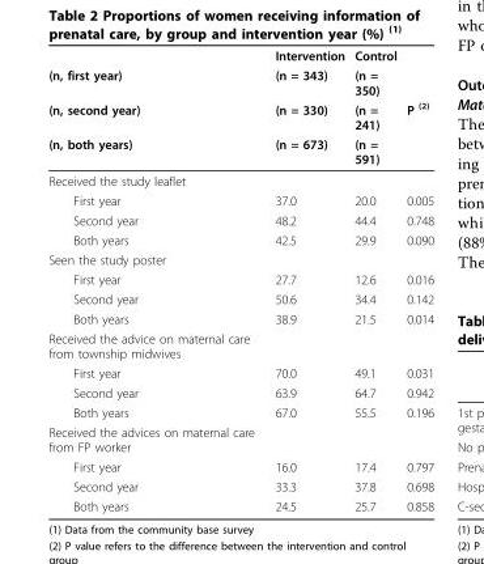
<table><thead><tr><td rowspan="4">(n, first year) (n, second year) (n, both years)</td><td rowspan="4">Intervention (n = 343) (n = 330) (n = 673)</td><td rowspan="4">Control (n = 350) (n = 241) (n = 591)</td><td rowspan="4">P <sup>(2)</sup></td></tr><tr></tr><tr></tr><tr></tr></thead><tbody><tr><td colspan="4">Received the study leaflet</td></tr><tr><td>First year</td><td>37.0</td><td>20.0</td><td>0.005</td></tr><tr><td>Second year</td><td>48.2</td><td>44.4</td><td>0.748</td></tr><tr><td>Both years</td><td>42.5</td><td>29.9</td><td>0.090</td></tr><tr><td colspan="4">Seen the study poster</td></tr><tr><td>First year</td><td>27.7</td><td>12.6</td><td>0.016</td></tr><tr><td>Second year</td><td>50.6</td><td>34.4</td><td>0.142</td></tr><tr><td>Both years</td><td>38.9</td><td>21.5</td><td>0.014</td></tr><tr><td colspan="4">Received the advice on maternal care from township midwives</td></tr><tr><td>First year</td><td>70.0</td><td>49.1</td><td>0.031</td></tr><tr><td>Second year</td><td>63.9</td><td>64.7</td><td>0.942</td></tr><tr><td>Both years</td><td>67.0</td><td>55.5</td><td>0.196</td></tr><tr><td colspan="4">Received the advices on maternal care from FP worker</td></tr><tr><td>First year</td><td>16.0</td><td>17.4</td><td>0.797</td></tr><tr><td>Second year</td><td>33.3</td><td>37.8</td><td>0.698</td></tr><tr><td>Both years</td><td>24.5</td><td>25.7</td><td>0.858</td></tr></tbody></table>